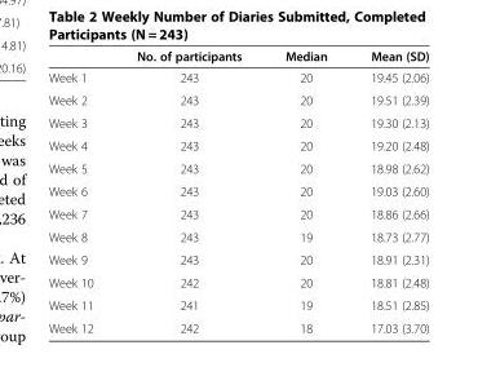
<table><thead><tr><td></td><td>No. of participants</td><td>Median</td><td>Mean (SD)</td></tr></thead><tbody><tr><td>Week 1</td><td>243</td><td>20</td><td>19.45 (2.06)</td></tr><tr><td>Week 2</td><td>243</td><td>20</td><td>19.51 (2.39)</td></tr><tr><td>Week 3</td><td>243</td><td>20</td><td>19.30 (2.13)</td></tr><tr><td>Week 4</td><td>243</td><td>20</td><td>19.20 (2.48)</td></tr><tr><td>Week 5</td><td>243</td><td>20</td><td>18.98 (2.62)</td></tr><tr><td>Week 6</td><td>243</td><td>20</td><td>19.03 (2.60)</td></tr><tr><td>Week 7</td><td>243</td><td>20</td><td>18.86 (2.66)</td></tr><tr><td>Week 8</td><td>243</td><td>19</td><td>18.73 (2.77)</td></tr><tr><td>Week 9</td><td>243</td><td>20</td><td>18.91 (2.31)</td></tr><tr><td>Week 10</td><td>242</td><td>20</td><td>18.81 (2.48)</td></tr><tr><td>Week 11</td><td>241</td><td>19</td><td>18.51 (2.85)</td></tr><tr><td>Week 12</td><td>242</td><td>18</td><td>17.03 (3.70)</td></tr></tbody></table>